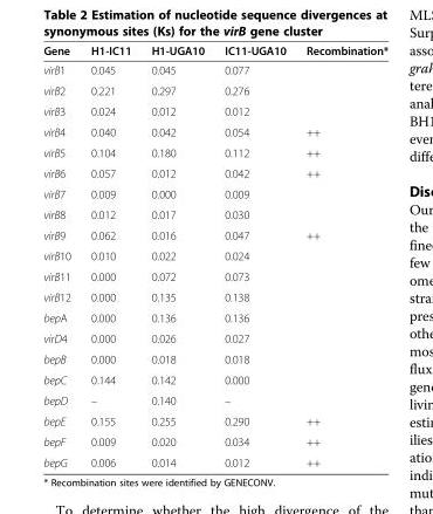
<table><thead><tr><td>Gene</td><td>H1-IC11</td><td>H1-UGA10</td><td>IC11-UGA10</td><td>Recombination*</td></tr></thead><tbody><tr><td>virB1</td><td>0.045</td><td>0.045</td><td>0.077</td><td></td></tr><tr><td>virB2</td><td>0.221</td><td>0.297</td><td>0.276</td><td></td></tr><tr><td>virB3</td><td>0.024</td><td>0.012</td><td>0.012</td><td></td></tr><tr><td>virB4</td><td>0.040</td><td>0.042</td><td>0.054</td><td>++</td></tr><tr><td>virB5</td><td>0.104</td><td>0.180</td><td>0.112</td><td>++</td></tr><tr><td>virB6</td><td>0.057</td><td>0.012</td><td>0.042</td><td>++</td></tr><tr><td>virB7</td><td>0.009</td><td>0.000</td><td>0.009</td><td></td></tr><tr><td>virB8</td><td>0.012</td><td>0.017</td><td>0.030</td><td></td></tr><tr><td>virB9</td><td>0.062</td><td>0.016</td><td>0.047</td><td>++</td></tr><tr><td>virB10</td><td>0.010</td><td>0.022</td><td>0.024</td><td></td></tr><tr><td>virB11</td><td>0.000</td><td>0.072</td><td>0.073</td><td></td></tr><tr><td>virB12</td><td>0.000</td><td>0.135</td><td>0.138</td><td></td></tr><tr><td>bepA</td><td>0.000</td><td>0.136</td><td>0.136</td><td></td></tr><tr><td>virD4</td><td>0.000</td><td>0.026</td><td>0.027</td><td></td></tr><tr><td>bepB</td><td>0.000</td><td>0.018</td><td>0.018</td><td></td></tr><tr><td>bepC</td><td>0.144</td><td>0.142</td><td>0.000</td><td></td></tr><tr><td>bepD</td><td>–</td><td>0.140</td><td>–</td><td></td></tr><tr><td>bepE</td><td>0.155</td><td>0.255</td><td>0.290</td><td>++</td></tr><tr><td>bepF</td><td>0.009</td><td>0.020</td><td>0.034</td><td>++</td></tr><tr><td>bepG</td><td>0.006</td><td>0.014</td><td>0.012</td><td>++</td></tr></tbody></table>